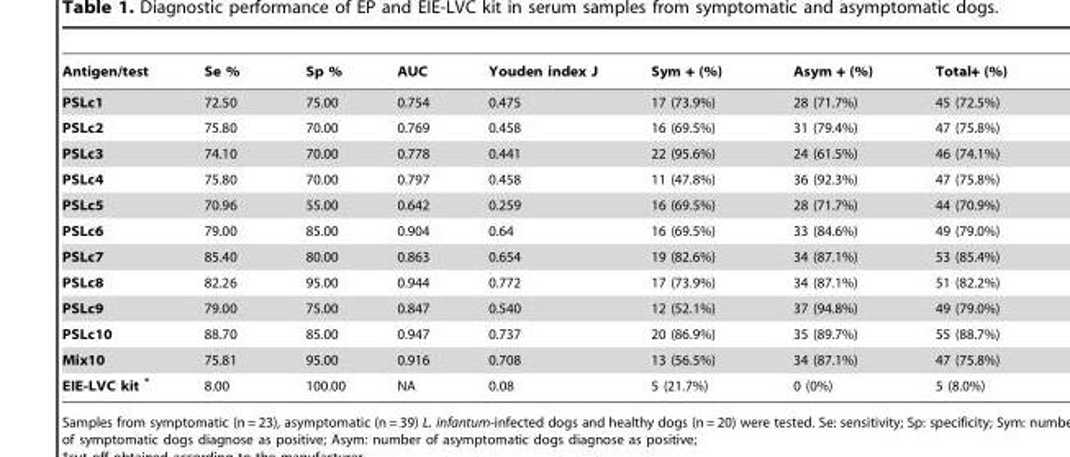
<table><thead><tr><td>Antigen/test</td><td>Se %</td><td>Sp %</td><td>AUC</td><td>Youden index J</td><td>Sym + (%)</td><td>Asym + (%)</td><td>Total+ (%)</td></tr></thead><tbody><tr><td>PSLc1</td><td>72.50</td><td>75.00</td><td>0.754</td><td>0.475</td><td>17 (73.9%)</td><td>28 (71.7%)</td><td>45 (72.5%)</td></tr><tr><td>PSLc2</td><td>75.80</td><td>70.00</td><td>0.769</td><td>0.458</td><td>16 (69.5%)</td><td>31 (79.4%)</td><td>47 (75.8%)</td></tr><tr><td>PSLc3</td><td>74.10</td><td>70.00</td><td>0.778</td><td>0.441</td><td>22 (95.6%)</td><td>24 (61.5%)</td><td>46 (74.1%)</td></tr><tr><td>PSLc4</td><td>75.80</td><td>70.00</td><td>0.797</td><td>0.458</td><td>11 (47.8%)</td><td>36 (92.3%)</td><td>47 (75.8%)</td></tr><tr><td>PSLc5</td><td>70.96</td><td>55.00</td><td>0.642</td><td>0.259</td><td>16 (69.5%)</td><td>28 (71.7%)</td><td>44 (70.9%)</td></tr><tr><td>PSLc6</td><td>79.00</td><td>85.00</td><td>0.904</td><td>0.64</td><td>16 (69.5%)</td><td>33 (84.6%)</td><td>49 (79.0%)</td></tr><tr><td>PSLc7</td><td>85.40</td><td>80.00</td><td>0.863</td><td>0.654</td><td>19 (82.6%)</td><td>34 (87.1%)</td><td>53 (85.4%)</td></tr><tr><td>PSLc8</td><td>82.26</td><td>95.00</td><td>0.944</td><td>0.772</td><td>17 (73.9%)</td><td>34 (87.1%)</td><td>51 (82.2%)</td></tr><tr><td>PSLc9</td><td>79.00</td><td>75.00</td><td>0.847</td><td>0.540</td><td>12 (52.1%)</td><td>37 (94.8%)</td><td>49 (79.0%)</td></tr><tr><td>PSLc10</td><td>88.70</td><td>85.00</td><td>0.947</td><td>0.737</td><td>20 (86.9%)</td><td>35 (89.7%)</td><td>55 (88.7%)</td></tr><tr><td>Mix10</td><td>75.81</td><td>95.00</td><td>0.916</td><td>0.708</td><td>13 (56.5%)</td><td>34 (87.1%)</td><td>47 (75.8%)</td></tr><tr><td>EIE-LVC kit *</td><td>8.00</td><td>100.00</td><td>NA</td><td>0.08</td><td>5 (21.7%)</td><td>0 (0%)</td><td>5 (8.0%)</td></tr></tbody></table>